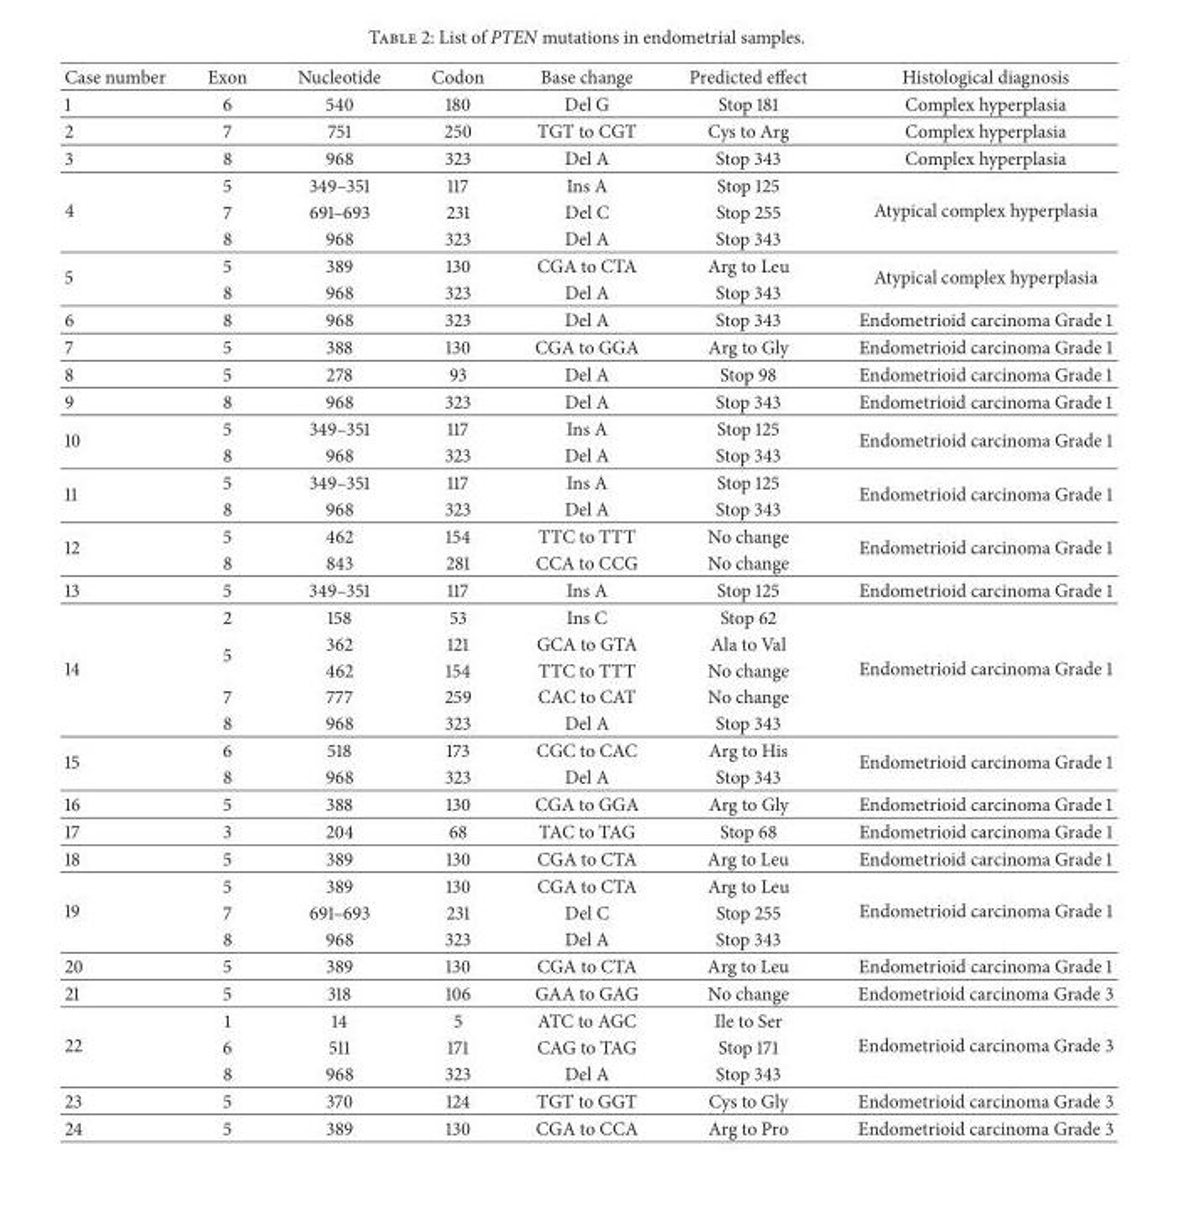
<table><thead><tr><td>Case number</td><td>Exon</td><td>Nucleotide</td><td>Codon</td><td>Base change</td><td>Predicted effect</td><td>Histological diagnosis</td></tr></thead><tbody><tr><td>1</td><td>6</td><td>540</td><td>180</td><td>Del G</td><td>Stop 181</td><td>Complex hyperplasia</td></tr><tr><td>2</td><td>7</td><td>751</td><td>250</td><td>TGT to CGT</td><td>Cys to Arg</td><td>Complex hyperplasia</td></tr><tr><td>3</td><td>8</td><td>968</td><td>323</td><td>Del A</td><td>Stop 343</td><td>Complex hyperplasia</td></tr><tr><td rowspan="3">4</td><td>5</td><td>349–351</td><td>117</td><td>Ins A</td><td>Stop 125</td><td rowspan="3">Atypical complex hyperplasia</td></tr><tr><td>7</td><td>691–693</td><td>231</td><td>Del C</td><td>Stop 255</td></tr><tr><td>8</td><td>968</td><td>323</td><td>Del A</td><td>Stop 343</td></tr><tr><td rowspan="2">5</td><td>5</td><td>389</td><td>130</td><td>CGA to CTA</td><td>Arg to Leu</td><td rowspan="2">Atypical complex hyperplasia</td></tr><tr><td>8</td><td>968</td><td>323</td><td>Del A</td><td>Stop 343</td></tr><tr><td>6</td><td>8</td><td>968</td><td>323</td><td>Del A</td><td>Stop 343</td><td>Endometrioid carcinoma Grade 1</td></tr><tr><td>7</td><td>5</td><td>388</td><td>130</td><td>CGA to GGA</td><td>Arg to Gly</td><td>Endometrioid carcinoma Grade 1</td></tr><tr><td>8</td><td>5</td><td>278</td><td>93</td><td>Del A</td><td>Stop 98</td><td>Endometrioid carcinoma Grade 1</td></tr><tr><td>9</td><td>8</td><td>968</td><td>323</td><td>Del A</td><td>Stop 343</td><td>Endometrioid carcinoma Grade 1</td></tr><tr><td rowspan="2">10</td><td>5</td><td>349–351</td><td>117</td><td>Ins A</td><td>Stop 125</td><td rowspan="2">Endometrioid carcinoma Grade 1</td></tr><tr><td>8</td><td>968</td><td>323</td><td>Del A</td><td>Stop 343</td></tr><tr><td rowspan="2">11</td><td>5</td><td>349–351</td><td>117</td><td>Ins A</td><td>Stop 125</td><td rowspan="2">Endometrioid carcinoma Grade 1</td></tr><tr><td>8</td><td>968</td><td>323</td><td>Del A</td><td>Stop 343</td></tr><tr><td rowspan="2">12</td><td>5</td><td>462</td><td>154</td><td>TTC to TTT</td><td>No change</td><td rowspan="2">Endometrioid carcinoma Grade 1</td></tr><tr><td>8</td><td>843</td><td>281</td><td>CCA to CCG</td><td>No change</td></tr><tr><td>13</td><td>5</td><td>349–351</td><td>117</td><td>Ins A</td><td>Stop 125</td><td>Endometrioid carcinoma Grade 1</td></tr><tr><td rowspan="5">14</td><td>2</td><td>158</td><td>53</td><td>Ins C</td><td>Stop 62</td><td rowspan="5">Endometrioid carcinoma Grade 1</td></tr><tr><td rowspan="2">5</td><td>362</td><td>121</td><td>GCA to GTA</td><td>Ala to Val</td></tr><tr><td>462</td><td>154</td><td>TTC to TTT</td><td>No change</td></tr><tr><td>7</td><td>777</td><td>259</td><td>CAC to CAT</td><td>No change</td></tr><tr><td>8</td><td>968</td><td>323</td><td>Del A</td><td>Stop 343</td></tr><tr><td rowspan="2">15</td><td>6</td><td>518</td><td>173</td><td>CGC to CAC</td><td>Arg to His</td><td rowspan="2">Endometrioid carcinoma Grade 1</td></tr><tr><td>8</td><td>968</td><td>323</td><td>Del A</td><td>Stop 343</td></tr><tr><td>16</td><td>5</td><td>388</td><td>130</td><td>CGA to GGA</td><td>Arg to Gly</td><td>Endometrioid carcinoma Grade 1</td></tr><tr><td>17</td><td>3</td><td>204</td><td>68</td><td>TAC to TAG</td><td>Stop 68</td><td>Endometrioid carcinoma Grade 1</td></tr><tr><td>18</td><td>5</td><td>389</td><td>130</td><td>CGA to CTA</td><td>Arg to Leu</td><td>Endometrioid carcinoma Grade 1</td></tr><tr><td rowspan="3">19</td><td>5</td><td>389</td><td>130</td><td>CGA to CTA</td><td>Arg to Leu</td><td rowspan="3">Endometrioid carcinoma Grade 1</td></tr><tr><td>7</td><td>691–693</td><td>231</td><td>Del C</td><td>Stop 255</td></tr><tr><td>8</td><td>968</td><td>323</td><td>Del A</td><td>Stop 343</td></tr><tr><td>20</td><td>5</td><td>389</td><td>130</td><td>CGA to CTA</td><td>Arg to Leu</td><td>Endometrioid carcinoma Grade 1</td></tr><tr><td>21</td><td>5</td><td>318</td><td>106</td><td>GAA to GAG</td><td>No change</td><td>Endometrioid carcinoma Grade 3</td></tr><tr><td rowspan="3">22</td><td>1</td><td>14</td><td>5</td><td>ATC to AGC</td><td>Ile to Ser</td><td rowspan="3">Endometrioid carcinoma Grade 3</td></tr><tr><td>6</td><td>511</td><td>171</td><td>CAG to TAG</td><td>Stop 171</td></tr><tr><td>8</td><td>968</td><td>323</td><td>Del A</td><td>Stop 343</td></tr><tr><td>23</td><td>5</td><td>370</td><td>124</td><td>TGT to GGT</td><td>Cys to Gly</td><td>Endometrioid carcinoma Grade 3</td></tr><tr><td>24</td><td>5</td><td>389</td><td>130</td><td>CGA to CCA</td><td>Arg to Pro</td><td>Endometrioid carcinoma Grade 3</td></tr></tbody></table>